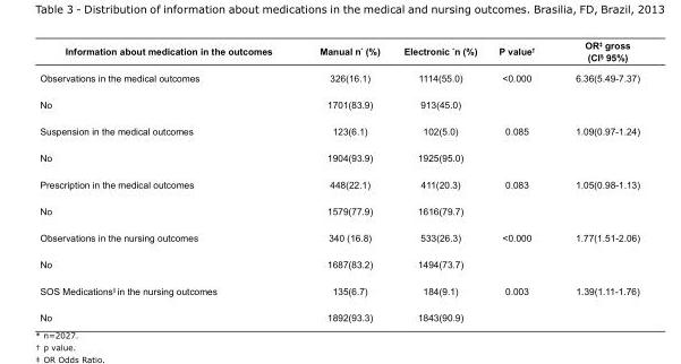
<table><tbody><tr><td>Information about medication in the outcomes</td><td>Manual n* (%)</td><td>Electronic *n (%)</td><td>P value<sup>†</sup></td><td>OR<sup>‡</sup> gross (CI<sup>§</sup> 95%)</td></tr><tr><td>Observations in the medical outcomes</td><td>326(16.1)</td><td>1114(55.0)</td><td>&lt;0.000</td><td>6.36(5.49-7.37)</td></tr><tr><td>No</td><td>1701(83.9)</td><td>913(45.0)</td><td></td><td></td></tr><tr><td>Suspension in the medical outcomes</td><td>123(6.1)</td><td>102(5.0)</td><td>0.085</td><td>1.09(0.97-1.24)</td></tr><tr><td>No</td><td>1904(93.9)</td><td>1925(95.0)</td><td></td><td></td></tr><tr><td>Prescription in the medical outcomes</td><td>448(22.1)</td><td>411(20.3)</td><td>0.083</td><td>1.05(0.98-1.13)</td></tr><tr><td>No</td><td>1579(77.9)</td><td>1616(79.7)</td><td></td><td></td></tr><tr><td>Observations in the nursing outcomes</td><td>340 (16.8)</td><td>533(26.3)</td><td>&lt;0.000</td><td>1.77(1.51-2.06)</td></tr><tr><td>No</td><td>1687(83.2)</td><td>1494(73.7)</td><td></td><td></td></tr><tr><td>SOS Medications<sup>||</sup> in the nursing outcomes</td><td>135(6.7)</td><td>184(9.1)</td><td>0.003</td><td>1.39(1.11-1.76)</td></tr><tr><td>No</td><td>1892(93.3)</td><td>1843(90.9)</td><td></td><td></td></tr></tbody></table>